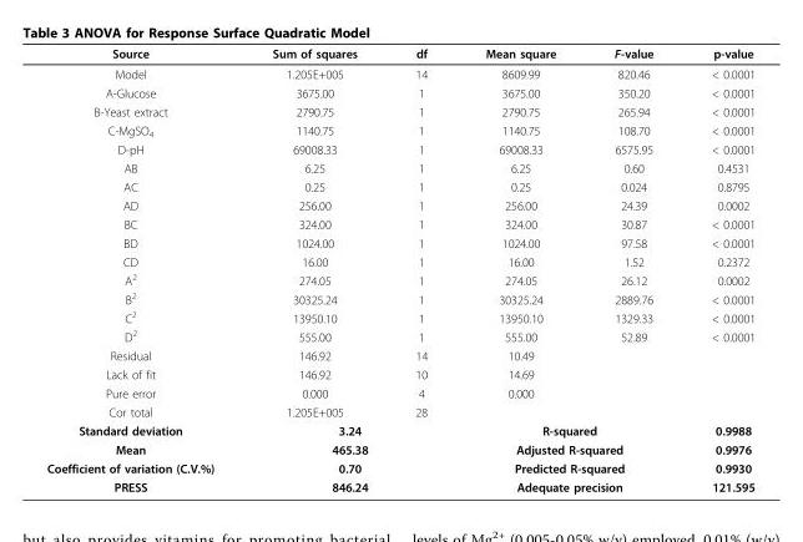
<table><tbody><tr><td>Source</td><td>Sum of squares</td><td>df</td><td>Mean square</td><td>F-value</td><td>p-value</td></tr><tr><td>Model</td><td>1.205E+005</td><td>14</td><td>8609.99</td><td>820.46</td><td>&lt; 0.0001</td></tr><tr><td>A-Glucose</td><td>3675.00</td><td>1</td><td>3675.00</td><td>350.20</td><td>&lt; 0.0001</td></tr><tr><td>B-Yeast extract</td><td>2790.75</td><td>1</td><td>2790.75</td><td>265.94</td><td>&lt; 0.0001</td></tr><tr><td>C-MgSO<sub>4</sub></td><td>1140.75</td><td>1</td><td>1140.75</td><td>108.70</td><td>&lt; 0.0001</td></tr><tr><td>D-pH</td><td>69008.33</td><td>1</td><td>69008.33</td><td>6575.95</td><td>&lt; 0.0001</td></tr><tr><td>AB</td><td>6.25</td><td>1</td><td>6.25</td><td>0.60</td><td>0.4531</td></tr><tr><td>AC</td><td>0.25</td><td>1</td><td>0.25</td><td>0.024</td><td>0.8795</td></tr><tr><td>AD</td><td>256.00</td><td>1</td><td>256.00</td><td>24.39</td><td>0.0002</td></tr><tr><td>BC</td><td>324.00</td><td>1</td><td>324.00</td><td>30.87</td><td>&lt; 0.0001</td></tr><tr><td>BD</td><td>1024.00</td><td>1</td><td>1024.00</td><td>97.58</td><td>&lt; 0.0001</td></tr><tr><td>CD</td><td>16.00</td><td>1</td><td>16.00</td><td>1.52</td><td>0.2372</td></tr><tr><td>A<sup>2</sup></td><td>274.05</td><td>1</td><td>274.05</td><td>26.12</td><td>0.0002</td></tr><tr><td>B<sup>2</sup></td><td>30325.24</td><td>1</td><td>30325.24</td><td>2889.76</td><td>&lt; 0.0001</td></tr><tr><td>C<sup>2</sup></td><td>13950.10</td><td>1</td><td>13950.10</td><td>1329.33</td><td>&lt; 0.0001</td></tr><tr><td>D<sup>2</sup></td><td>555.00</td><td>1</td><td>555.00</td><td>52.89</td><td>&lt; 0.0001</td></tr><tr><td>Residual</td><td>146.92</td><td>14</td><td>10.49</td><td></td><td></td></tr><tr><td>Lack of fit</td><td>146.92</td><td>10</td><td>14.69</td><td></td><td></td></tr><tr><td>Pure error</td><td>0.000</td><td>4</td><td>0.000</td><td></td><td></td></tr><tr><td>Cor total</td><td>1.205E+005</td><td>28</td><td></td><td></td><td></td></tr><tr><td>Standard deviation</td><td colspan="2">3.24</td><td colspan="2">R-squared</td><td>0.9988</td></tr><tr><td>Mean</td><td colspan="2">465.38</td><td colspan="2">Adjusted R-squared</td><td>0.9976</td></tr><tr><td>Coefficient of variation (C.V.%)</td><td colspan="2">0.70</td><td colspan="2">Predicted R-squared</td><td>0.9930</td></tr><tr><td>PRESS</td><td colspan="2">846.24</td><td colspan="2">Adequate precision</td><td>121.595</td></tr></tbody></table>